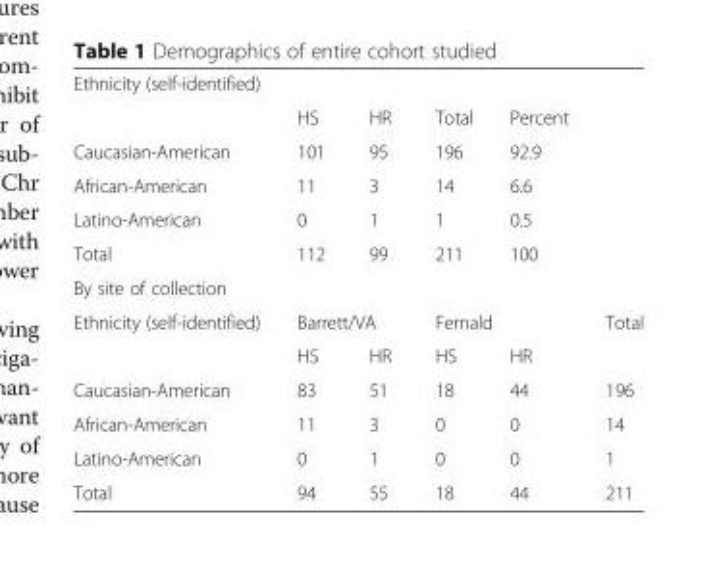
<table><tbody><tr><td colspan="6">Ethnicity (self-identified)</td></tr><tr><td></td><td>HS</td><td>HR</td><td>Total</td><td>Percent</td><td></td></tr><tr><td>Caucasian-American</td><td>101</td><td>95</td><td>196</td><td>92.9</td><td></td></tr><tr><td>African-American</td><td>11</td><td>3</td><td>14</td><td>6.6</td><td></td></tr><tr><td>Latino-American</td><td>0</td><td>1</td><td>1</td><td>0.5</td><td></td></tr><tr><td>Total</td><td>112</td><td>99</td><td>211</td><td>100</td><td></td></tr><tr><td colspan="6">By site of collection</td></tr><tr><td rowspan="2">Ethnicity (self-identified)</td><td colspan="2">Barrett/VA</td><td colspan="2">Fernald</td><td>Total</td></tr><tr><td>HS</td><td>HR</td><td>HS</td><td>HR</td><td></td></tr><tr><td>Caucasian-American</td><td>83</td><td>51</td><td>18</td><td>44</td><td>196</td></tr><tr><td>African-American</td><td>11</td><td>3</td><td>0</td><td>0</td><td>14</td></tr><tr><td>Latino-American</td><td>0</td><td>1</td><td>0</td><td>0</td><td>1</td></tr><tr><td>Total</td><td>94</td><td>55</td><td>18</td><td>44</td><td>211</td></tr></tbody></table>